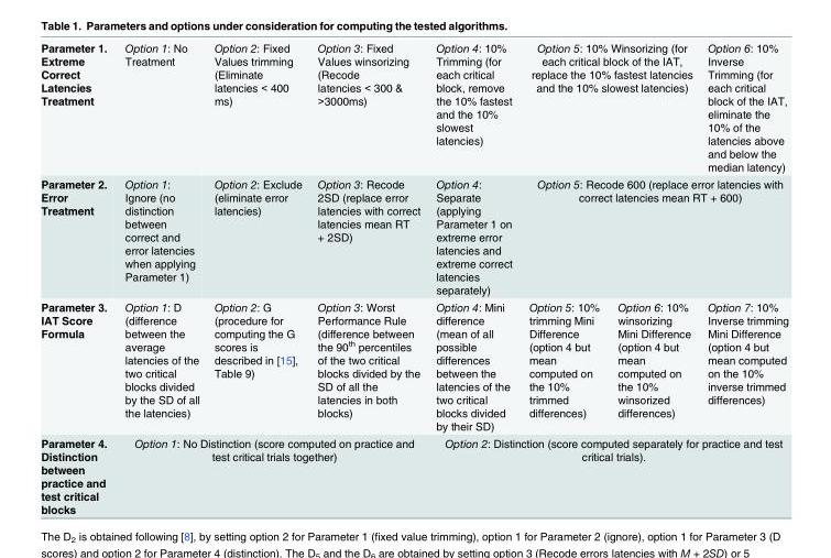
<table><tbody><tr><td>Parameter 1. Extreme Correct Latencies Treatment</td><td>Option 1: No Treatment</td><td>Option 2: Fixed Values trimming (Eliminate latencies &lt; 400 ms)</td><td>Option 3: Fixed Values winsorizing (Recode latencies &lt; 300 &amp; &gt;3000ms)</td><td>Option 4: 10% Trimming (for each critical block, remove the 10% fastest and the 10% slowest latencies)</td><td colspan="2">Option 5: 10% Winsorizing (for each critical block of the IAT, replace the 10% fastest latencies and the 10% slowest latencies)</td><td>Option 6: 10% Inverse Trimming (for each critical block of the IAT, eliminate the 10% of the latencies above and below the median latency)</td></tr><tr><td>Parameter 2. Error Treatment</td><td>Option 1: Ignore (no distinction between correct and error latencies when applying Parameter 1)</td><td>Option 2: Exclude (eliminate error latencies)</td><td>Option 3: Recode 2SD (replace error latencies with correct latencies mean RT + 2SD)</td><td>Option 4: Separate (applying Parameter 1 on extreme error latencies and extreme correct latencies separately)</td><td colspan="3">Option 5: Recode 600 (replace error latencies with correct latencies mean RT + 600)</td></tr><tr><td>Parameter 3. IAT Score Formula</td><td>Option 1: D (difference between the average latencies of the two critical blocks divided by the SD of all the latencies)</td><td>Option 2: G (procedure for computing the G scores is described in [15], Table 9)</td><td>Option 3: Worst Performance Rule (difference between the 90<sup>th</sup> percentiles of the two critical blocks divided by the SD of all the latencies in both blocks)</td><td>Option 4: Mini difference (mean of all possible differences between the latencies of the two critical blocks divided by their SD)</td><td>Option 5: 10% trimming Mini Difference (option 4 but mean computed on the 10% trimmed differences)</td><td>Option 6: 10% winsorizing Mini Difference (option 4 but mean computed on the 10% winsorized differences)</td><td>Option 7: 10% Inverse trimming Mini Difference (option 4 but mean computed on the 10% inverse trimmed differences)</td></tr><tr><td>Parameter 4. Distinction between practice and test critical blocks</td><td colspan="3">Option 1: No Distinction (score computed on practice and test critical trials together)</td><td colspan="4">Option 2: Distinction (score computed separately for practice and test critical trials).</td></tr></tbody></table>